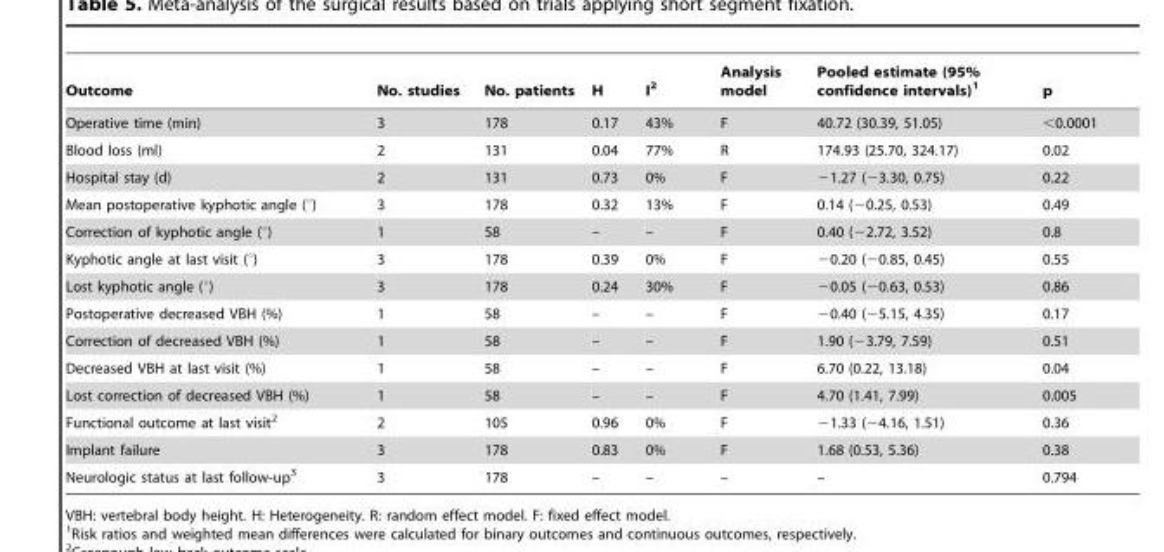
<table><thead><tr><td>Outcome</td><td>No. studies</td><td>No. patients</td><td>H</td><td>I<sup>2</sup></td><td>Analysis model</td><td>Pooled estimate (95% confidence intervals)<sup>1</sup></td><td>p</td></tr></thead><tbody><tr><td>Operative time (min)</td><td>3</td><td>178</td><td>0.17</td><td>43%</td><td>F</td><td>40.72 (30.39, 51.05)</td><td>&lt;0.0001</td></tr><tr><td>Blood loss (ml)</td><td>2</td><td>131</td><td>0.04</td><td>77%</td><td>R</td><td>174.93 (25.70, 324.17)</td><td>0.02</td></tr><tr><td>Hospital stay (d)</td><td>2</td><td>131</td><td>0.73</td><td>0%</td><td>F</td><td>−1.27 (−3.30, 0.75)</td><td>0.22</td></tr><tr><td>Mean postoperative kyphotic angle (°)</td><td>3</td><td>178</td><td>0.32</td><td>13%</td><td>F</td><td>0.14 (−0.25, 0.53)</td><td>0.49</td></tr><tr><td>Correction of kyphotic angle (°)</td><td>1</td><td>58</td><td>–</td><td>–</td><td>F</td><td>0.40 (−2.72, 3.52)</td><td>0.8</td></tr><tr><td>Kyphotic angle at last visit (°)</td><td>3</td><td>178</td><td>0.39</td><td>0%</td><td>F</td><td>−0.20 (−0.85, 0.45)</td><td>0.55</td></tr><tr><td>Lost kyphotic angle (°)</td><td>3</td><td>178</td><td>0.24</td><td>30%</td><td>F</td><td>−0.05 (−0.63, 0.53)</td><td>0.86</td></tr><tr><td>Postoperative decreased VBH (%)</td><td>1</td><td>58</td><td>–</td><td>–</td><td>F</td><td>−0.40 (−5.15, 4.35)</td><td>0.17</td></tr><tr><td>Correction of decreased VBH (%)</td><td>1</td><td>58</td><td>–</td><td>–</td><td>F</td><td>1.90 (−3.79, 7.59)</td><td>0.51</td></tr><tr><td>Decreased VBH at last visit (%)</td><td>1</td><td>58</td><td>–</td><td>–</td><td>F</td><td>6.70 (0.22, 13.18)</td><td>0.04</td></tr><tr><td>Lost correction of decreased VBH (%)</td><td>1</td><td>58</td><td>–</td><td>–</td><td>F</td><td>4.70 (1.41, 7.99)</td><td>0.005</td></tr><tr><td>Functional outcome at last visit<sup>2</sup></td><td>2</td><td>105</td><td>0.96</td><td>0%</td><td>F</td><td>−1.33 (−4.16, 1.51)</td><td>0.36</td></tr><tr><td>Implant failure</td><td>3</td><td>178</td><td>0.83</td><td>0%</td><td>F</td><td>1.68 (0.53, 5.36)</td><td>0.38</td></tr><tr><td>Neurologic status at last follow-up<sup>3</sup></td><td>3</td><td>178</td><td>–</td><td>–</td><td>–</td><td>–</td><td>0.794</td></tr></tbody></table>